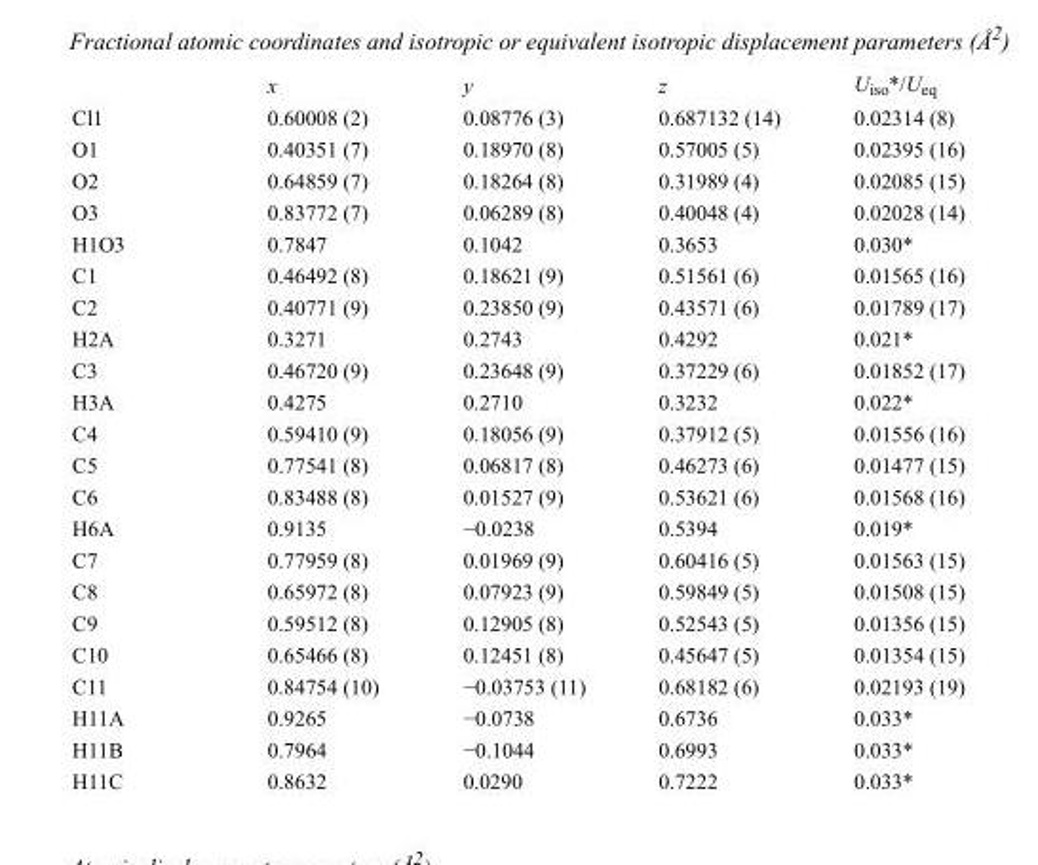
<table><thead><tr><td></td><td>x</td><td>y</td><td>z</td><td>U<sub>iso</sub>*/U<sub>eq</sub></td></tr></thead><tbody><tr><td>Cl1</td><td>0.60008 (2)</td><td>0.08776 (3)</td><td>0.687132 (14)</td><td>0.02314 (8)</td></tr><tr><td>O1</td><td>0.40351 (7)</td><td>0.18970 (8)</td><td>0.57005 (5)</td><td>0.02395 (16)</td></tr><tr><td>O2</td><td>0.64859 (7)</td><td>0.18264 (8)</td><td>0.31989 (4)</td><td>0.02085 (15)</td></tr><tr><td>O3</td><td>0.83772 (7)</td><td>0.06289 (8)</td><td>0.40048 (4)</td><td>0.02028 (14)</td></tr><tr><td>H1O3</td><td>0.7847</td><td>0.1042</td><td>0.3653</td><td>0.030*</td></tr><tr><td>C1</td><td>0.46492 (8)</td><td>0.18621 (9)</td><td>0.51561 (6)</td><td>0.01565 (16)</td></tr><tr><td>C2</td><td>0.40771 (9)</td><td>0.23850 (9)</td><td>0.43571 (6)</td><td>0.01789 (17)</td></tr><tr><td>H2A</td><td>0.3271</td><td>0.2743</td><td>0.4292</td><td>0.021*</td></tr><tr><td>C3</td><td>0.46720 (9)</td><td>0.23648 (9)</td><td>0.37229 (6)</td><td>0.01852 (17)</td></tr><tr><td>H3A</td><td>0.4275</td><td>0.2710</td><td>0.3232</td><td>0.022*</td></tr><tr><td>C4</td><td>0.59410 (9)</td><td>0.18056 (9)</td><td>0.37912 (5)</td><td>0.01556 (16)</td></tr><tr><td>C5</td><td>0.77541 (8)</td><td>0.06817 (8)</td><td>0.46273 (6)</td><td>0.01477 (15)</td></tr><tr><td>C6</td><td>0.83488 (8)</td><td>0.01527 (9)</td><td>0.53621 (6)</td><td>0.01568 (16)</td></tr><tr><td>H6A</td><td>0.9135</td><td>−0.0238</td><td>0.5394</td><td>0.019*</td></tr><tr><td>C7</td><td>0.77959 (8)</td><td>0.01969 (9)</td><td>0.60416 (5)</td><td>0.01563 (15)</td></tr><tr><td>C8</td><td>0.65972 (8)</td><td>0.07923 (9)</td><td>0.59849 (5)</td><td>0.01508 (15)</td></tr><tr><td>C9</td><td>0.59512 (8)</td><td>0.12905 (8)</td><td>0.52543 (5)</td><td>0.01356 (15)</td></tr><tr><td>C10</td><td>0.65466 (8)</td><td>0.12451 (8)</td><td>0.45647 (5)</td><td>0.01354 (15)</td></tr><tr><td>C11</td><td>0.84754 (10)</td><td>−0.03753 (11)</td><td>0.68182 (6)</td><td>0.02193 (19)</td></tr><tr><td>H11A</td><td>0.9265</td><td>−0.0738</td><td>0.6736</td><td>0.033*</td></tr><tr><td>H11B</td><td>0.7964</td><td>−0.1044</td><td>0.6993</td><td>0.033*</td></tr><tr><td>H11C</td><td>0.8632</td><td>0.0290</td><td>0.7222</td><td>0.033*</td></tr></tbody></table>